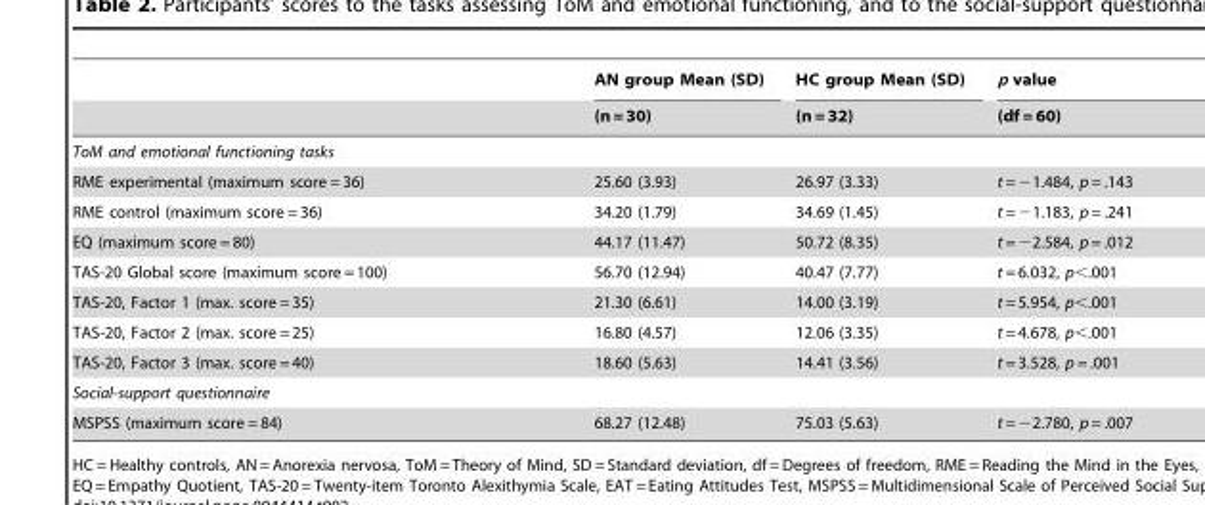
<table><thead><tr><td rowspan="2"></td><td rowspan="2">AN group Mean (SD) (n = 30)</td><td rowspan="2">HC group Mean (SD) (n = 32)</td><td rowspan="2">p value (df = 60)</td></tr><tr></tr></thead><tbody><tr><td colspan="4">ToM and emotional functioning tasks</td></tr><tr><td>RME experimental (maximum score = 36)</td><td>25.60 (3.93)</td><td>26.97 (3.33)</td><td>t = −1.484, p = .143</td></tr><tr><td>RME control (maximum score = 36)</td><td>34.20 (1.79)</td><td>34.69 (1.45)</td><td>t = −1.183, p = .241</td></tr><tr><td>EQ (maximum score = 80)</td><td>44.17 (11.47)</td><td>50.72 (8.35)</td><td>t = −2.584, p = .012</td></tr><tr><td>TAS-20 Global score (maximum score = 100)</td><td>56.70 (12.94)</td><td>40.47 (7.77)</td><td>t = 6.032, p&lt;.001</td></tr><tr><td>TAS-20, Factor 1 (max. score = 35)</td><td>21.30 (6.61)</td><td>14.00 (3.19)</td><td>t = 5.954, p&lt;.001</td></tr><tr><td>TAS-20, Factor 2 (max. score = 25)</td><td>16.80 (4.57)</td><td>12.06 (3.35)</td><td>t = 4.678, p&lt;.001</td></tr><tr><td>TAS-20, Factor 3 (max. score = 40)</td><td>18.60 (5.63)</td><td>14.41 (3.56)</td><td>t = 3.528, p = .001</td></tr><tr><td colspan="4">Social-support questionnaire</td></tr><tr><td>MSPSS (maximum score = 84)</td><td>68.27 (12.48)</td><td>75.03 (5.63)</td><td>t = −2.780, p = .007</td></tr></tbody></table>